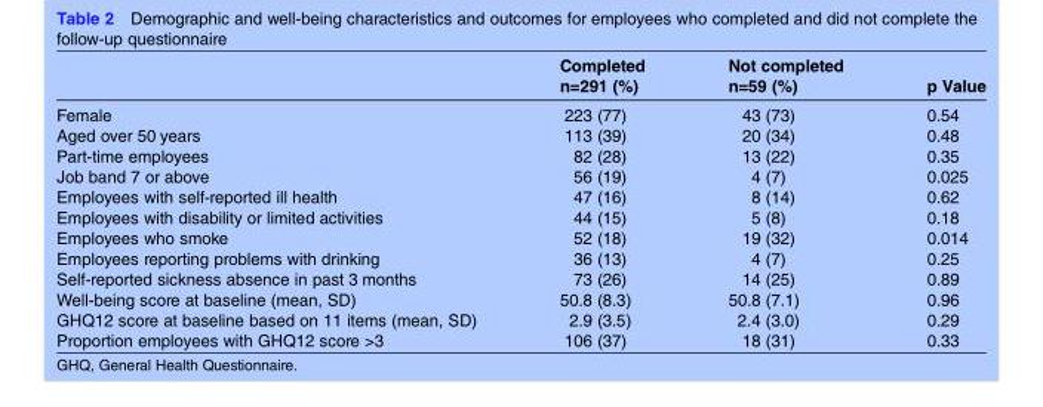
<table><thead><tr><td></td><td>Completed n=291 (%)</td><td>Not completed n=59 (%)</td><td>p Value</td></tr></thead><tbody><tr><td>Female</td><td>223 (77)</td><td>43 (73)</td><td>0.54</td></tr><tr><td>Aged over 50 years</td><td>113 (39)</td><td>20 (34)</td><td>0.48</td></tr><tr><td>Part-time employees</td><td>82 (28)</td><td>13 (22)</td><td>0.35</td></tr><tr><td>Job band 7 or above</td><td>56 (19)</td><td>4 (7)</td><td>0.025</td></tr><tr><td>Employees with self-reported ill health</td><td>47 (16)</td><td>8 (14)</td><td>0.62</td></tr><tr><td>Employees with disability or limited activities</td><td>44 (15)</td><td>5 (8)</td><td>0.18</td></tr><tr><td>Employees who smoke</td><td>52 (18)</td><td>19 (32)</td><td>0.014</td></tr><tr><td>Employees reporting problems with drinking</td><td>36 (13)</td><td>4 (7)</td><td>0.25</td></tr><tr><td>Self-reported sickness absence in past 3 months</td><td>73 (26)</td><td>14 (25)</td><td>0.89</td></tr><tr><td>Well-being score at baseline (mean, SD)</td><td>50.8 (8.3)</td><td>50.8 (7.1)</td><td>0.96</td></tr><tr><td>GHQ12 score at baseline based on 11 items (mean, SD)</td><td>2.9 (3.5)</td><td>2.4 (3.0)</td><td>0.29</td></tr><tr><td>Proportion employees with GHQ12 score &gt;3</td><td>106 (37)</td><td>18 (31)</td><td>0.33</td></tr></tbody></table>